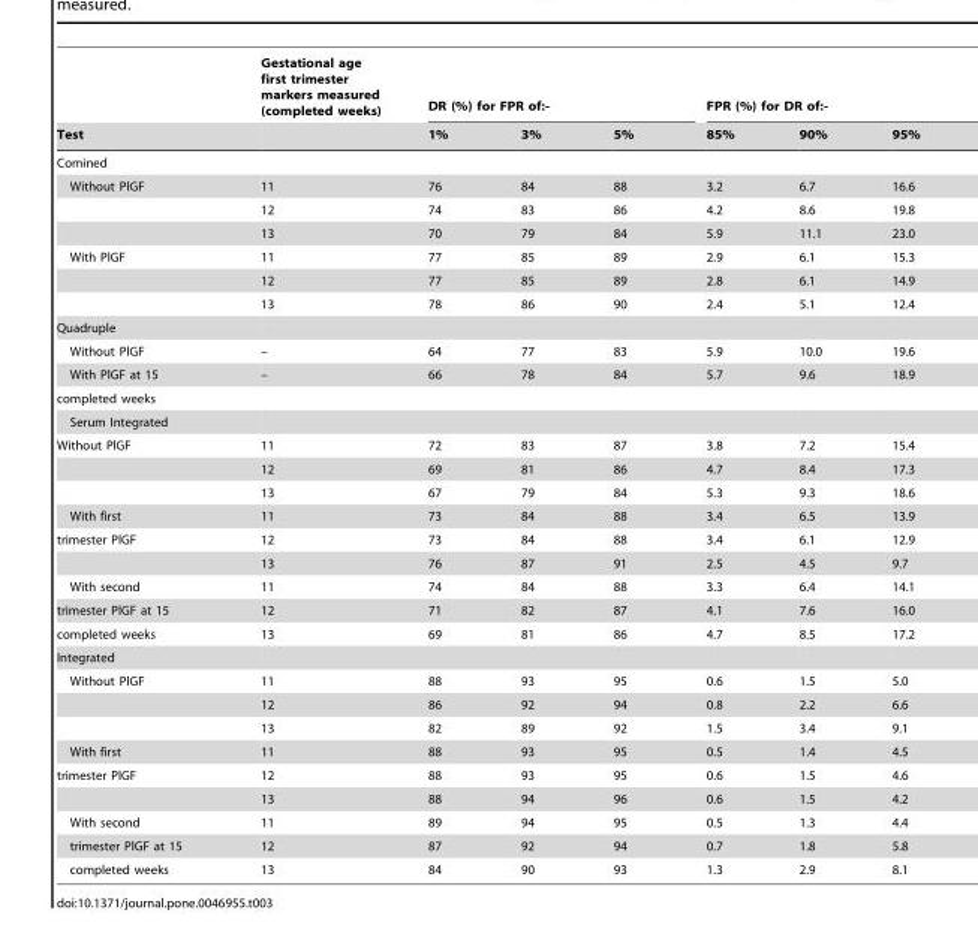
<table><thead><tr><td rowspan="2">Test</td><td rowspan="2">Gestational age first trimester markers measured (completed weeks)</td><td colspan="3">DR (%) for FPR of:-</td><td colspan="3">FPR (%) for DR of:-</td></tr><tr><td>1%</td><td>3%</td><td>5%</td><td>85%</td><td>90%</td><td>95%</td></tr></thead><tbody><tr><td colspan="8">Comined</td></tr><tr><td rowspan="3">Without PlGF</td><td>11</td><td>76</td><td>84</td><td>88</td><td>3.2</td><td>6.7</td><td>16.6</td></tr><tr><td>12</td><td>74</td><td>83</td><td>86</td><td>4.2</td><td>8.6</td><td>19.8</td></tr><tr><td>13</td><td>70</td><td>79</td><td>84</td><td>5.9</td><td>11.1</td><td>23.0</td></tr><tr><td rowspan="3">With PlGF</td><td>11</td><td>77</td><td>85</td><td>89</td><td>2.9</td><td>6.1</td><td>15.3</td></tr><tr><td>12</td><td>77</td><td>85</td><td>89</td><td>2.8</td><td>6.1</td><td>14.9</td></tr><tr><td>13</td><td>78</td><td>86</td><td>90</td><td>2.4</td><td>5.1</td><td>12.4</td></tr><tr><td colspan="8">Quadruple</td></tr><tr><td>Without PlGF</td><td>–</td><td>64</td><td>77</td><td>83</td><td>5.9</td><td>10.0</td><td>19.6</td></tr><tr><td>With PlGF at 15</td><td>–</td><td>66</td><td>78</td><td>84</td><td>5.7</td><td>9.6</td><td>18.9</td></tr><tr><td colspan="8">completed weeks</td></tr><tr><td colspan="8">Serum Integrated</td></tr><tr><td rowspan="3">Without PlGF</td><td>11</td><td>72</td><td>83</td><td>87</td><td>3.8</td><td>7.2</td><td>15.4</td></tr><tr><td>12</td><td>69</td><td>81</td><td>86</td><td>4.7</td><td>8.4</td><td>17.3</td></tr><tr><td>13</td><td>67</td><td>79</td><td>84</td><td>5.3</td><td>9.3</td><td>18.6</td></tr><tr><td>With first</td><td>11</td><td>73</td><td>84</td><td>88</td><td>3.4</td><td>6.5</td><td>13.9</td></tr><tr><td rowspan="2">trimester PlGF</td><td>12</td><td>73</td><td>84</td><td>88</td><td>3.4</td><td>6.1</td><td>12.9</td></tr><tr><td>13</td><td>76</td><td>87</td><td>91</td><td>2.5</td><td>4.5</td><td>9.7</td></tr><tr><td>With second</td><td>11</td><td>74</td><td>84</td><td>88</td><td>3.3</td><td>6.4</td><td>14.1</td></tr><tr><td>trimester PlGF at 15</td><td>12</td><td>71</td><td>82</td><td>87</td><td>4.1</td><td>7.6</td><td>16.0</td></tr><tr><td>completed weeks</td><td>13</td><td>69</td><td>81</td><td>86</td><td>4.7</td><td>8.5</td><td>17.2</td></tr><tr><td colspan="8">Integrated</td></tr><tr><td rowspan="3">Without PlGF</td><td>11</td><td>88</td><td>93</td><td>95</td><td>0.6</td><td>1.5</td><td>5.0</td></tr><tr><td>12</td><td>86</td><td>92</td><td>94</td><td>0.8</td><td>2.2</td><td>6.6</td></tr><tr><td>13</td><td>82</td><td>89</td><td>92</td><td>1.5</td><td>3.4</td><td>9.1</td></tr><tr><td>With first</td><td>11</td><td>88</td><td>93</td><td>95</td><td>0.5</td><td>1.4</td><td>4.5</td></tr><tr><td rowspan="2">trimester PlGF</td><td>12</td><td>88</td><td>93</td><td>95</td><td>0.6</td><td>1.5</td><td>4.6</td></tr><tr><td>13</td><td>88</td><td>94</td><td>96</td><td>0.6</td><td>1.5</td><td>4.2</td></tr><tr><td>With second</td><td>11</td><td>89</td><td>94</td><td>95</td><td>0.5</td><td>1.3</td><td>4.4</td></tr><tr><td>trimester PlGF at 15</td><td>12</td><td>87</td><td>92</td><td>94</td><td>0.7</td><td>1.8</td><td>5.8</td></tr><tr><td>completed weeks</td><td>13</td><td>84</td><td>90</td><td>93</td><td>1.3</td><td>2.9</td><td>8.1</td></tr></tbody></table>